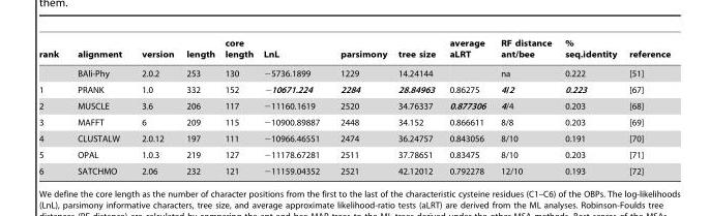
<table><thead><tr><td>rank</td><td>alignment</td><td>version</td><td>length</td><td>core length</td><td>LnL</td><td>parsimony</td><td>tree size</td><td>average aLRT</td><td>RF distance ant/bee</td><td>% seq.identity</td><td>reference</td></tr></thead><tbody><tr><td></td><td>BAli-Phy</td><td>2.0.2</td><td>253</td><td>130</td><td>−5736.1899</td><td>1229</td><td>14.24144</td><td></td><td>na</td><td>0.222</td><td>[51]</td></tr><tr><td>1</td><td>PRANK</td><td>1.0</td><td>332</td><td>152</td><td>−10671.224</td><td>2284</td><td>28.84963</td><td>0.86275</td><td>4/2</td><td>0.223</td><td>[67]</td></tr><tr><td>2</td><td>MUSCLE</td><td>3.6</td><td>206</td><td>117</td><td>−11160.1619</td><td>2520</td><td>34.76337</td><td>0.877306</td><td>4/4</td><td>0.203</td><td>[68]</td></tr><tr><td>3</td><td>MAFFT</td><td>6</td><td>209</td><td>115</td><td>−10900.89887</td><td>2448</td><td>34.152</td><td>0.866611</td><td>8/8</td><td>0.203</td><td>[69]</td></tr><tr><td>4</td><td>CLUSTALW</td><td>2.0.12</td><td>197</td><td>111</td><td>−10966.46551</td><td>2474</td><td>36.24757</td><td>0.843056</td><td>8/10</td><td>0.191</td><td>[70]</td></tr><tr><td>5</td><td>OPAL</td><td>1.0.3</td><td>219</td><td>127</td><td>−11178.67281</td><td>2511</td><td>37.78651</td><td>0.83475</td><td>8/10</td><td>0.203</td><td>[71]</td></tr><tr><td>6</td><td>SATCHMO</td><td>2.06</td><td>232</td><td>121</td><td>−11159.04352</td><td>2521</td><td>42.12012</td><td>0.792278</td><td>12/10</td><td>0.193</td><td>[72]</td></tr></tbody></table>